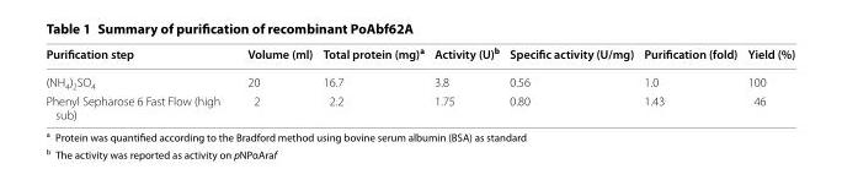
<table><thead><tr><td>Purification step</td><td>Volume (ml)</td><td>Total protein (mg)<sup>a</sup></td><td>Activity (U)<sup>b</sup></td><td>Specific activity (U/mg)</td><td>Purification (fold)</td><td>Yield (%)</td></tr></thead><tbody><tr><td>(NH<sub>4</sub>)<sub>2</sub>SO<sub>4</sub></td><td>20</td><td>16.7</td><td>3.8</td><td>0.56</td><td>1.0</td><td>100</td></tr><tr><td>Phenyl Sepharose 6 Fast Flow (high sub)</td><td>2</td><td>2.2</td><td>1.75</td><td>0.80</td><td>1.43</td><td>46</td></tr></tbody></table>